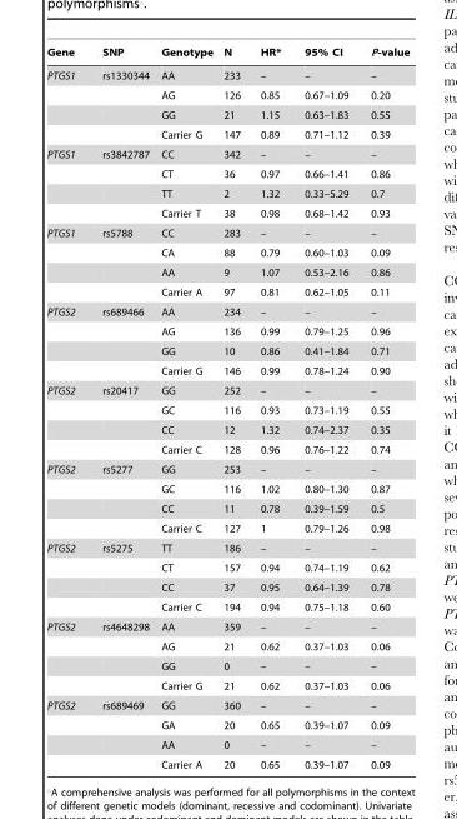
<table><thead><tr><td>Gene</td><td>SNP</td><td>Genotype</td><td>N</td><td>HR*</td><td>95% CI</td><td>P-value</td></tr></thead><tbody><tr><td rowspan="4">PTGS1</td><td>rs1330344</td><td>AA</td><td>233</td><td>–</td><td>–</td><td>–</td></tr><tr><td></td><td>AG</td><td>126</td><td>0.85</td><td>0.67–1.09</td><td>0.20</td></tr><tr><td></td><td>GG</td><td>21</td><td>1.15</td><td>0.63–1.83</td><td>0.55</td></tr><tr><td></td><td>Carrier G</td><td>147</td><td>0.89</td><td>0.71–1.12</td><td>0.39</td></tr><tr><td rowspan="4">PTGS1</td><td>rs3842787</td><td>CC</td><td>342</td><td>–</td><td>–</td><td>–</td></tr><tr><td></td><td>CT</td><td>36</td><td>0.97</td><td>0.66–1.41</td><td>0.86</td></tr><tr><td></td><td>TT</td><td>2</td><td>1.32</td><td>0.33–5.29</td><td>0.7</td></tr><tr><td></td><td>Carrier T</td><td>38</td><td>0.98</td><td>0.68–1.42</td><td>0.93</td></tr><tr><td rowspan="4">PTGS1</td><td>rs5788</td><td>CC</td><td>283</td><td>–</td><td>–</td><td>–</td></tr><tr><td></td><td>CA</td><td>88</td><td>0.79</td><td>0.60–1.03</td><td>0.09</td></tr><tr><td></td><td>AA</td><td>9</td><td>1.07</td><td>0.53–2.16</td><td>0.86</td></tr><tr><td></td><td>Carrier A</td><td>97</td><td>0.81</td><td>0.62–1.05</td><td>0.11</td></tr><tr><td rowspan="4">PTGS2</td><td>rs689466</td><td>AA</td><td>234</td><td>–</td><td>–</td><td>–</td></tr><tr><td></td><td>AG</td><td>136</td><td>0.99</td><td>0.79–1.25</td><td>0.96</td></tr><tr><td></td><td>GG</td><td>10</td><td>0.86</td><td>0.41–1.84</td><td>0.71</td></tr><tr><td></td><td>Carrier G</td><td>146</td><td>0.99</td><td>0.78–1.24</td><td>0.90</td></tr><tr><td rowspan="4">PTGS2</td><td>rs20417</td><td>GG</td><td>252</td><td>–</td><td>–</td><td>–</td></tr><tr><td></td><td>GC</td><td>116</td><td>0.93</td><td>0.73–1.19</td><td>0.55</td></tr><tr><td></td><td>CC</td><td>12</td><td>1.32</td><td>0.74–2.37</td><td>0.35</td></tr><tr><td></td><td>Carrier C</td><td>128</td><td>0.96</td><td>0.76–1.22</td><td>0.74</td></tr><tr><td rowspan="4">PTGS2</td><td>rs5277</td><td>GG</td><td>253</td><td>–</td><td>–</td><td>–</td></tr><tr><td></td><td>GC</td><td>116</td><td>1.02</td><td>0.80–1.30</td><td>0.87</td></tr><tr><td></td><td>CC</td><td>11</td><td>0.78</td><td>0.39–1.59</td><td>0.5</td></tr><tr><td></td><td>Carrier C</td><td>127</td><td>1</td><td>0.79–1.26</td><td>0.98</td></tr><tr><td rowspan="4">PTGS2</td><td>rs5275</td><td>TT</td><td>186</td><td>–</td><td>–</td><td>–</td></tr><tr><td></td><td>CT</td><td>157</td><td>0.94</td><td>0.74–1.19</td><td>0.62</td></tr><tr><td></td><td>CC</td><td>37</td><td>0.95</td><td>0.64–1.39</td><td>0.78</td></tr><tr><td></td><td>Carrier C</td><td>194</td><td>0.94</td><td>0.75–1.18</td><td>0.60</td></tr><tr><td rowspan="4">PTGS2</td><td>rs4648298</td><td>AA</td><td>359</td><td>–</td><td>–</td><td>–</td></tr><tr><td></td><td>AG</td><td>21</td><td>0.62</td><td>0.37–1.03</td><td>0.06</td></tr><tr><td></td><td>GG</td><td>0</td><td>–</td><td>–</td><td>–</td></tr><tr><td></td><td>Carrier G</td><td>21</td><td>0.62</td><td>0.37–1.03</td><td>0.06</td></tr><tr><td rowspan="4">PTGS2</td><td>rs689469</td><td>GG</td><td>360</td><td>–</td><td>–</td><td>–</td></tr><tr><td></td><td>GA</td><td>20</td><td>0.65</td><td>0.39–1.07</td><td>0.09</td></tr><tr><td></td><td>AA</td><td>0</td><td>–</td><td>–</td><td>–</td></tr><tr><td></td><td>Carrier A</td><td>20</td><td>0.65</td><td>0.39–1.07</td><td>0.09</td></tr></tbody></table>